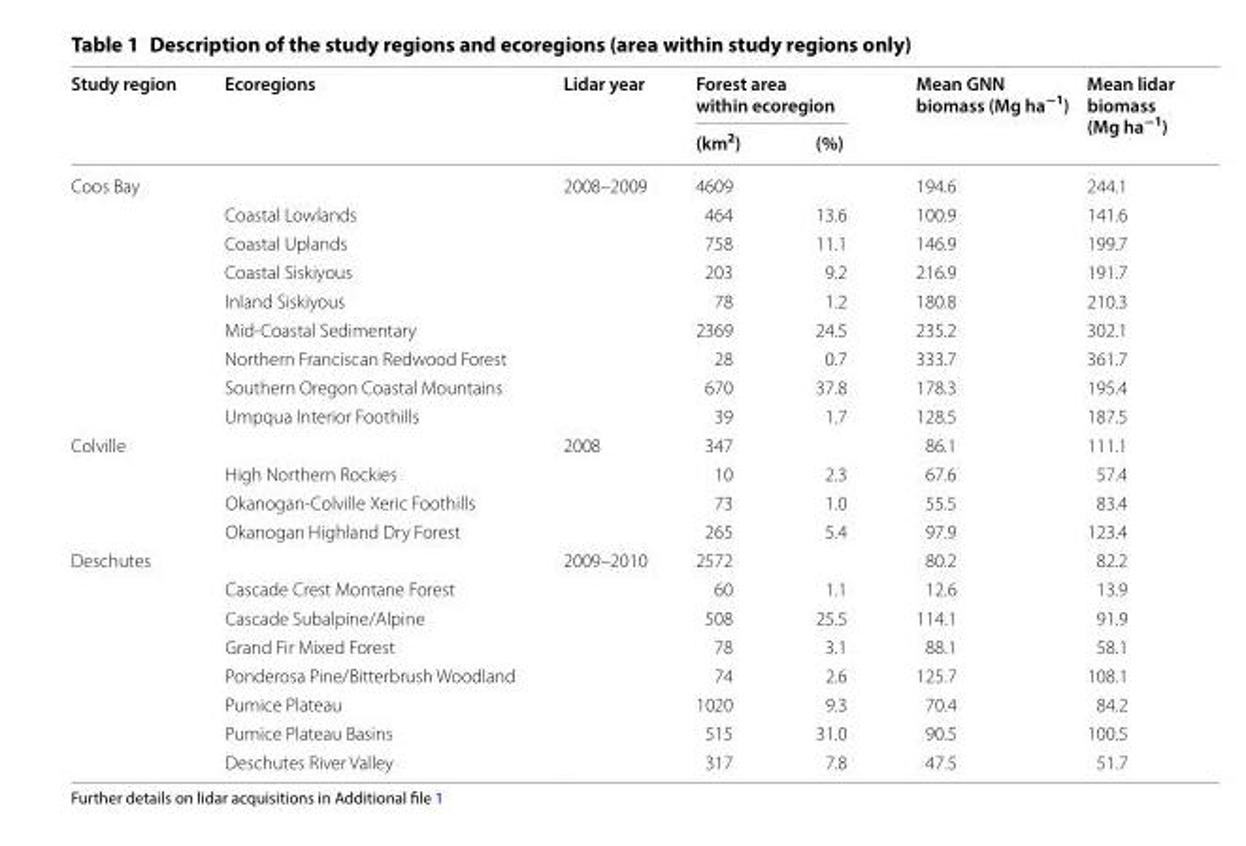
<table><thead><tr><td rowspan="2">Study region</td><td rowspan="2">Ecoregions</td><td rowspan="2">Lidar year</td><td colspan="2">Forest area within ecoregion</td><td rowspan="2">Mean GNN biomass (Mg ha<sup>−1</sup>)</td><td rowspan="2">Mean lidar biomass (Mg ha<sup>−1</sup>)</td></tr><tr><td>(km<sup>2</sup>)</td><td>(%)</td></tr></thead><tbody><tr><td rowspan="9">Coos Bay</td><td></td><td>2008–2009</td><td>4609</td><td></td><td>194.6</td><td>244.1</td></tr><tr><td>Coastal Lowlands</td><td></td><td>464</td><td>13.6</td><td>100.9</td><td>141.6</td></tr><tr><td>Coastal Uplands</td><td></td><td>758</td><td>11.1</td><td>146.9</td><td>199.7</td></tr><tr><td>Coastal Siskiyous</td><td></td><td>203</td><td>9.2</td><td>216.9</td><td>191.7</td></tr><tr><td>Inland Siskiyous</td><td></td><td>78</td><td>1.2</td><td>180.8</td><td>210.3</td></tr><tr><td>Mid-Coastal Sedimentary</td><td></td><td>2369</td><td>24.5</td><td>235.2</td><td>302.1</td></tr><tr><td>Northern Franciscan Redwood Forest</td><td></td><td>28</td><td>0.7</td><td>333.7</td><td>361.7</td></tr><tr><td>Southern Oregon Coastal Mountains</td><td></td><td>670</td><td>37.8</td><td>178.3</td><td>195.4</td></tr><tr><td>Umpqua Interior Foothills</td><td></td><td>39</td><td>1.7</td><td>128.5</td><td>187.5</td></tr><tr><td rowspan="4">Colville</td><td></td><td>2008</td><td>347</td><td></td><td>86.1</td><td>111.1</td></tr><tr><td>High Northern Rockies</td><td></td><td>10</td><td>2.3</td><td>67.6</td><td>57.4</td></tr><tr><td>Okanogan-Colville Xeric Foothills</td><td></td><td>73</td><td>1.0</td><td>55.5</td><td>83.4</td></tr><tr><td>Okanogan Highland Dry Forest</td><td></td><td>265</td><td>5.4</td><td>97.9</td><td>123.4</td></tr><tr><td rowspan="8">Deschutes</td><td></td><td>2009–2010</td><td>2572</td><td></td><td>80.2</td><td>82.2</td></tr><tr><td>Cascade Crest Montane Forest</td><td></td><td>60</td><td>1.1</td><td>12.6</td><td>13.9</td></tr><tr><td>Cascade Subalpine/Alpine</td><td></td><td>508</td><td>25.5</td><td>114.1</td><td>91.9</td></tr><tr><td>Grand Fir Mixed Forest</td><td></td><td>78</td><td>3.1</td><td>88.1</td><td>58.1</td></tr><tr><td>Ponderosa Pine/Bitterbrush Woodland</td><td></td><td>74</td><td>2.6</td><td>125.7</td><td>108.1</td></tr><tr><td>Pumice Plateau</td><td></td><td>1020</td><td>9.3</td><td>70.4</td><td>84.2</td></tr><tr><td>Pumice Plateau Basins</td><td></td><td>515</td><td>31.0</td><td>90.5</td><td>100.5</td></tr><tr><td>Deschutes River Valley</td><td></td><td>317</td><td>7.8</td><td>47.5</td><td>51.7</td></tr></tbody></table>